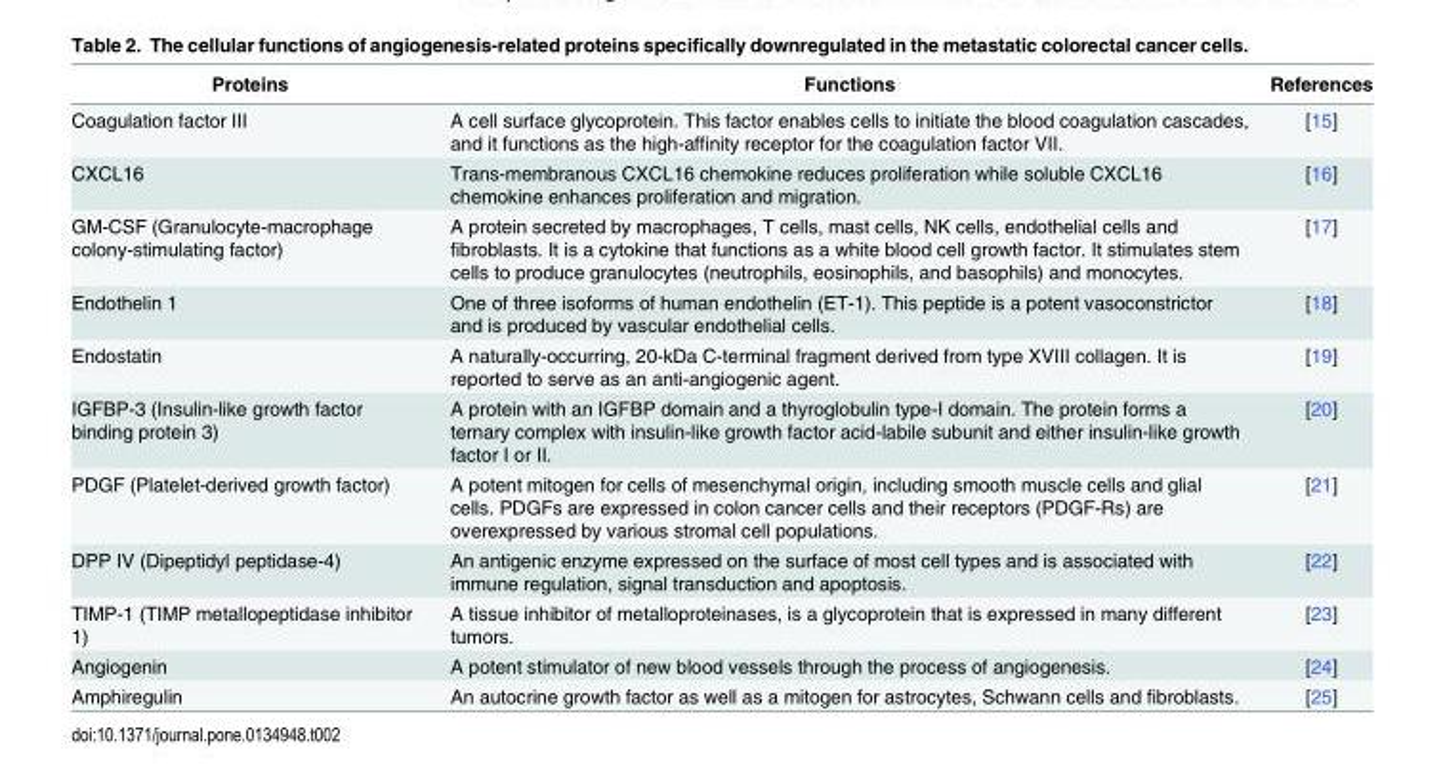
<table><thead><tr><td>Proteins</td><td>Functions</td><td>References</td></tr></thead><tbody><tr><td>Coagulation factor III</td><td>A cell surface glycoprotein. This factor enables cells to initiate the blood coagulation cascades, and it functions as the high-affinity receptor for the coagulation factor VII.</td><td>[15]</td></tr><tr><td>CXCL16</td><td>Trans-membranous CXCL16 chemokine reduces proliferation while soluble CXCL16 chemokine enhances proliferation and migration.</td><td>[16]</td></tr><tr><td>GM-CSF (Granulocyte-macrophage colony-stimulating factor)</td><td>A protein secreted by macrophages, T cells, mast cells, NK cells, endothelial cells and fibroblasts. It is a cytokine that functions as a white blood cell growth factor. It stimulates stem cells to produce granulocytes (neutrophils, eosinophils, and basophils) and monocytes.</td><td>[17]</td></tr><tr><td>Endothelin 1</td><td>One of three isoforms of human endothelin (ET-1). This peptide is a potent vasoconstrictor and is produced by vascular endothelial cells.</td><td>[18]</td></tr><tr><td>Endostatin</td><td>A naturally-occurring, 20-kDa C-terminal fragment derived from type XVIII collagen. It is reported to serve as an anti-angiogenic agent.</td><td>[19]</td></tr><tr><td>IGFBP-3 (Insulin-like growth factor binding protein 3)</td><td>A protein with an IGFBP domain and a thyroglobulin type-I domain. The protein forms a ternary complex with insulin-like growth factor acid-labile subunit and either insulin-like growth factor I or II.</td><td>[20]</td></tr><tr><td>PDGF (Platelet-derived growth factor)</td><td>A potent mitogen for cells of mesenchymal origin, including smooth muscle cells and glial cells. PDGFs are expressed in colon cancer cells and their receptors (PDGF-Rs) are overexpressed by various stromal cell populations.</td><td>[21]</td></tr><tr><td>DPP IV (Dipeptidyl peptidase-4)</td><td>An antigenic enzyme expressed on the surface of most cell types and is associated with immune regulation, signal transduction and apoptosis.</td><td>[22]</td></tr><tr><td>TIMP-1 (TIMP metallopeptidase inhibitor 1)</td><td>A tissue inhibitor of metalloproteinases, is a glycoprotein that is expressed in many different tumors.</td><td>[23]</td></tr><tr><td>Angiogenin</td><td>A potent stimulator of new blood vessels through the process of angiogenesis.</td><td>[24]</td></tr><tr><td>Amphiregulin</td><td>An autocrine growth factor as well as a mitogen for astrocytes, Schwann cells and fibroblasts.</td><td>[25]</td></tr></tbody></table>